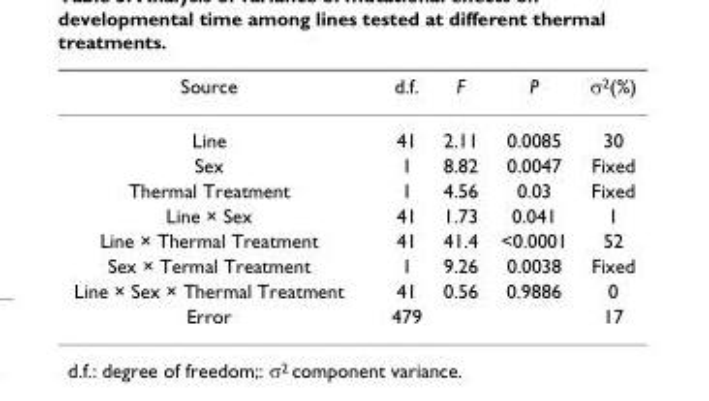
<table><thead><tr><td>Source</td><td>d.f.</td><td>F</td><td>P</td><td>σ<sup>2</sup>(%)</td></tr></thead><tbody><tr><td>Line</td><td>41</td><td>2.11</td><td>0.0085</td><td>30</td></tr><tr><td>Sex</td><td>1</td><td>8.82</td><td>0.0047</td><td>Fixed</td></tr><tr><td>Thermal Treatment</td><td>1</td><td>4.56</td><td>0.03</td><td>Fixed</td></tr><tr><td>Line × Sex</td><td>41</td><td>1.73</td><td>0.041</td><td>1</td></tr><tr><td>Line × Thermal Treatment</td><td>41</td><td>41.4</td><td>&lt;0.0001</td><td>52</td></tr><tr><td>Sex × Termal Treatment</td><td>1</td><td>9.26</td><td>0.0038</td><td>Fixed</td></tr><tr><td>Line × Sex × Thermal Treatment</td><td>41</td><td>0.56</td><td>0.9886</td><td>0</td></tr><tr><td>Error</td><td>479</td><td></td><td></td><td>17</td></tr></tbody></table>